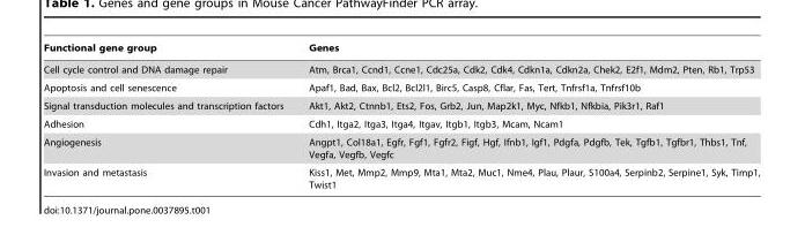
<table><thead><tr><td>Functional gene group</td><td>Genes</td></tr></thead><tbody><tr><td>Cell cycle control and DNA damage repair</td><td>Atm, Brca1, Ccnd1, Ccne1, Cdc25a, Cdk2, Cdk4, Cdkn1a, Cdkn2a, Chek2, E2f1, Mdm2, Pten, Rb1, Trp53</td></tr><tr><td>Apoptosis and cell senescence</td><td>Apaf1, Bad, Bax, Bcl2, Bcl2l1, Birc5, Casp8, Cflar, Fas, Tert, Tnfrsf1a, Tnfrsf10b</td></tr><tr><td>Signal transduction molecules and transcription factors</td><td>Akt1, Akt2, Ctnnb1, Ets2, Fos, Grb2, Jun, Map2k1, Myc, Nfkb1, Nfkbia, Pik3r1, Raf1</td></tr><tr><td>Adhesion</td><td>Cdh1, Itga2, Itga3, Itga4, Itgav, Itgb1, Itgb3, Mcam, Ncam1</td></tr><tr><td>Angiogenesis</td><td>Angpt1, Col18a1, Egfr, Fgf1, Fgfr2, Figf, Hgf, Ifnb1, Igf1, Pdgfa, Pdgfb, Tek, Tgfb1, Tgfbr1, Thbs1, Tnf, Vegfa, Vegfb, Vegfc</td></tr><tr><td>Invasion and metastasis</td><td>Kiss1, Met, Mmp2, Mmp9, Mta1, Mta2, Muc1, Nme4, Plau, Plaur, S100a4, Serpinb2, Serpine1, Syk, Timp1, Twist1</td></tr></tbody></table>